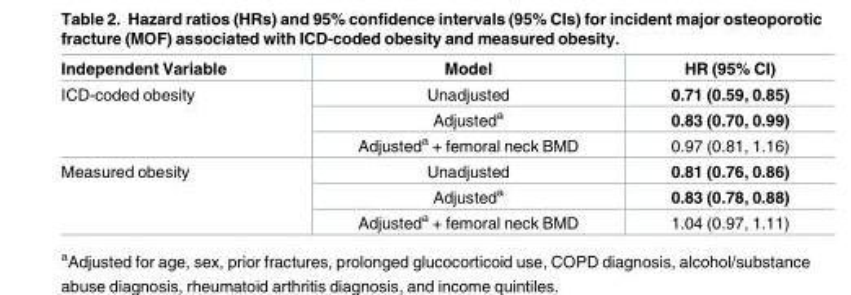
<table><thead><tr><td>Independent Variable</td><td>Model</td><td>HR (95% CI)</td></tr></thead><tbody><tr><td rowspan="3">ICD-coded obesity</td><td>Unadjusted</td><td>0.71 (0.59, 0.85)</td></tr><tr><td>Adjusted<sup>a</sup></td><td>0.83 (0.70, 0.99)</td></tr><tr><td>Adjusted<sup>a</sup> + femoral neck BMD</td><td>0.97 (0.81, 1.16)</td></tr><tr><td rowspan="3">Measured obesity</td><td>Unadjusted</td><td>0.81 (0.76, 0.86)</td></tr><tr><td>Adjusted<sup>a</sup></td><td>0.83 (0.78, 0.88)</td></tr><tr><td>Adjusted<sup>a</sup> + femoral neck BMD</td><td>1.04 (0.97, 1.11)</td></tr></tbody></table>